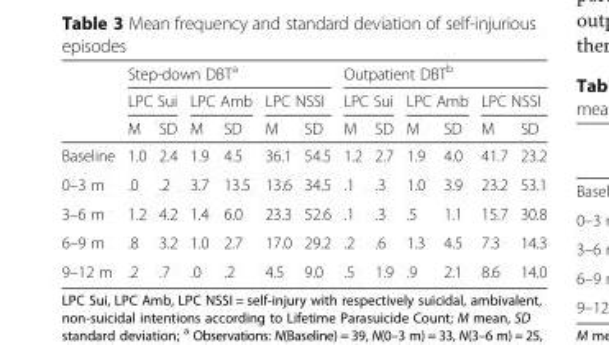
<table><thead><tr><td rowspan="3"></td><td colspan="6">Step-down DBT<sup>a</sup></td><td colspan="6">Outpatient DBT<sup>b</sup></td></tr><tr><td colspan="2">LPC Sui</td><td colspan="2">LPC Amb</td><td colspan="2">LPC NSSI</td><td colspan="2">LPC Sui</td><td colspan="2">LPC Amb</td><td colspan="2">LPC NSSI</td></tr><tr><td>M</td><td>SD</td><td>M</td><td>SD</td><td>M</td><td>SD</td><td>M</td><td>SD</td><td>M</td><td>SD</td><td>M</td><td>SD</td></tr></thead><tbody><tr><td>Baseline</td><td>1.0</td><td>2.4</td><td>1.9</td><td>4.5</td><td>36.1</td><td>54.5</td><td>1.2</td><td>2.7</td><td>1.9</td><td>4.0</td><td>41.7</td><td>23.2</td></tr><tr><td>0–3 m</td><td>.0</td><td>.2</td><td>3.7</td><td>13.5</td><td>13.6</td><td>34.5</td><td>.1</td><td>.3</td><td>1.0</td><td>3.9</td><td>23.2</td><td>53.1</td></tr><tr><td>3–6 m</td><td>1.2</td><td>4.2</td><td>1.4</td><td>6.0</td><td>23.3</td><td>52.6</td><td>.1</td><td>.3</td><td>.5</td><td>1.1</td><td>15.7</td><td>30.8</td></tr><tr><td>6–9 m</td><td>.8</td><td>3.2</td><td>1.0</td><td>2.7</td><td>17.0</td><td>29.2</td><td>.2</td><td>.6</td><td>1.3</td><td>4.5</td><td>7.3</td><td>14.3</td></tr><tr><td>9–12 m</td><td>.2</td><td>.7</td><td>.0</td><td>.2</td><td>4.5</td><td>9.0</td><td>.5</td><td>1.9</td><td>.9</td><td>2.1</td><td>8.6</td><td>14.0</td></tr></tbody></table>